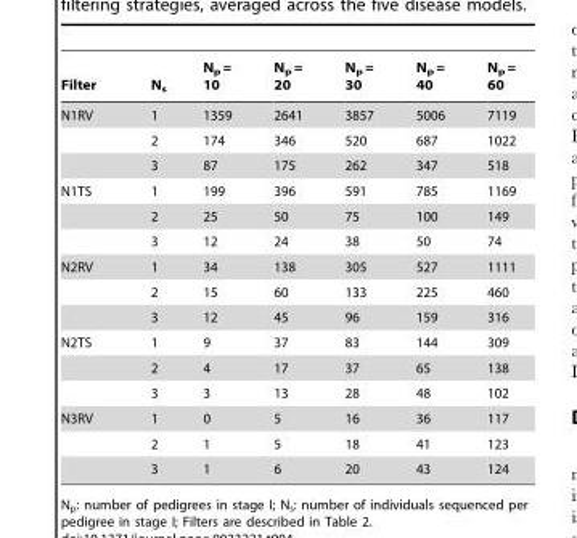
<table><thead><tr><td>Filter</td><td>N<sub>s</sub></td><td>N<sub>p</sub> = 10</td><td>N<sub>p</sub> = 20</td><td>N<sub>p</sub> = 30</td><td>N<sub>p</sub> = 40</td><td>N<sub>p</sub> = 60</td></tr></thead><tbody><tr><td rowspan="3">N1RV</td><td>1</td><td>1359</td><td>2641</td><td>3857</td><td>5006</td><td>7119</td></tr><tr><td>2</td><td>174</td><td>346</td><td>520</td><td>687</td><td>1022</td></tr><tr><td>3</td><td>87</td><td>175</td><td>262</td><td>347</td><td>518</td></tr><tr><td rowspan="3">N1TS</td><td>1</td><td>199</td><td>396</td><td>591</td><td>785</td><td>1169</td></tr><tr><td>2</td><td>25</td><td>50</td><td>75</td><td>100</td><td>149</td></tr><tr><td>3</td><td>12</td><td>24</td><td>38</td><td>50</td><td>74</td></tr><tr><td rowspan="3">N2RV</td><td>1</td><td>34</td><td>138</td><td>305</td><td>527</td><td>1111</td></tr><tr><td>2</td><td>15</td><td>60</td><td>133</td><td>225</td><td>460</td></tr><tr><td>3</td><td>12</td><td>45</td><td>96</td><td>159</td><td>316</td></tr><tr><td rowspan="3">N2TS</td><td>1</td><td>9</td><td>37</td><td>83</td><td>144</td><td>309</td></tr><tr><td>2</td><td>4</td><td>17</td><td>37</td><td>65</td><td>138</td></tr><tr><td>3</td><td>3</td><td>13</td><td>28</td><td>48</td><td>102</td></tr><tr><td rowspan="3">N3RV</td><td>1</td><td>0</td><td>5</td><td>16</td><td>36</td><td>117</td></tr><tr><td>2</td><td>1</td><td>5</td><td>18</td><td>41</td><td>123</td></tr><tr><td>3</td><td>1</td><td>6</td><td>20</td><td>43</td><td>124</td></tr></tbody></table>